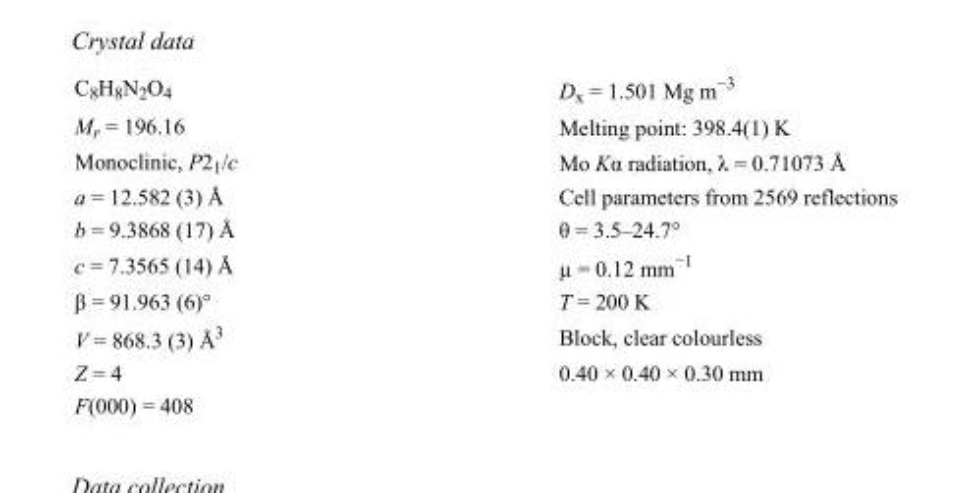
<table><tbody><tr><td>C<sub>8</sub>H<sub>8</sub>N<sub>2</sub>O<sub>4</sub></td><td>D<sub>x</sub> = 1.501 Mg m<sup>−3</sup></td></tr><tr><td>M<sub>r</sub> = 196.16</td><td>Melting point: 398.4(1) K</td></tr><tr><td>Monoclinic, P2<sub>1</sub>/c</td><td>Mo Kα radiation, λ = 0.71073 Å</td></tr><tr><td>a = 12.582 (3) Å</td><td>Cell parameters from 2569 reflections</td></tr><tr><td>b = 9.3868 (17) Å</td><td>θ = 3.5–24.7°</td></tr><tr><td>c = 7.3565 (14) Å</td><td>µ = 0.12 mm<sup>−1</sup></td></tr><tr><td>β = 91.963 (6)°</td><td>T = 200 K</td></tr><tr><td>V = 868.3 (3) Å<sup>3</sup></td><td>Block, clear colourless</td></tr><tr><td>Z = 4</td><td>0.40 × 0.40 × 0.30 mm</td></tr><tr><td>F(000) = 408</td><td></td></tr></tbody></table>